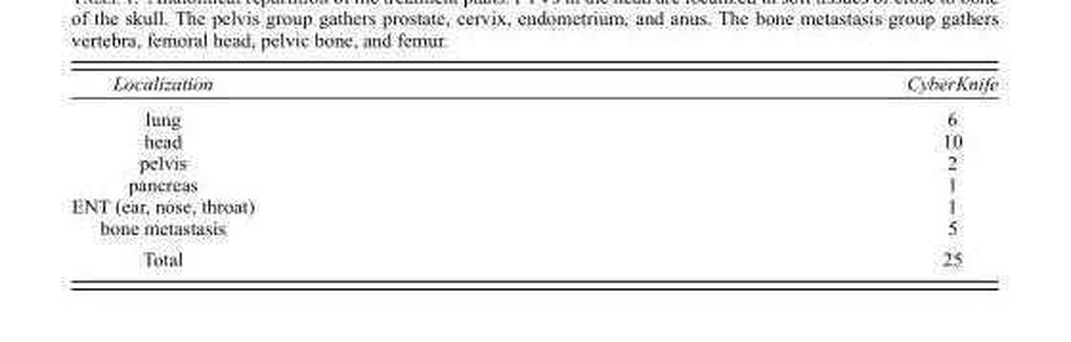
<table><thead><tr><td>Localization</td><td>CyberKnife</td></tr></thead><tbody><tr><td>lung</td><td>6</td></tr><tr><td>head</td><td>10</td></tr><tr><td>pelvis</td><td>2</td></tr><tr><td>pancreas</td><td>1</td></tr><tr><td>ENT (ear, nose, throat)</td><td>1</td></tr><tr><td>bone metastasis</td><td>5</td></tr><tr><td>Total</td><td>25</td></tr></tbody></table>